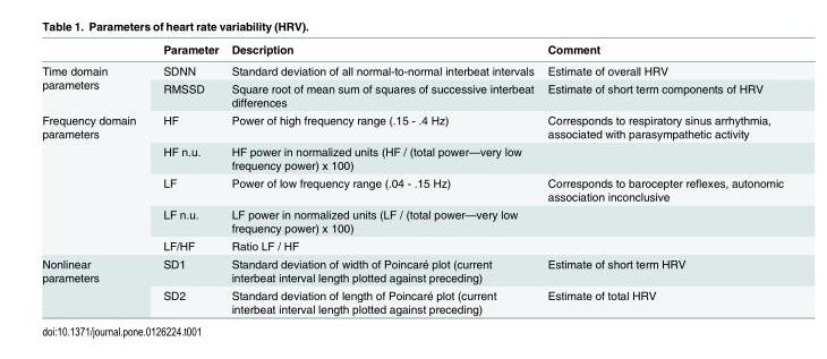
<table><thead><tr><td></td><td>Parameter</td><td>Description</td><td>Comment</td></tr></thead><tbody><tr><td rowspan="2">Time domain parameters</td><td>SDNN</td><td>Standard deviation of all normal-to-normal interbeat intervals</td><td>Estimate of overall HRV</td></tr><tr><td>RMSSD</td><td>Square root of mean sum of squares of successive interbeat differences</td><td>Estimate of short term components of HRV</td></tr><tr><td rowspan="5">Frequency domain parameters</td><td>HF</td><td>Power of high frequency range (.15 - .4 Hz)</td><td>Corresponds to respiratory sinus arrhythmia, associated with parasympathetic activity</td></tr><tr><td>HF n.u.</td><td>HF power in normalized units (HF / (total power—very low frequency power) x 100)</td><td></td></tr><tr><td>LF</td><td>Power of low frequency range (.04 - .15 Hz)</td><td>Corresponds to barocepter reflexes, autonomic association inconclusive</td></tr><tr><td>LF n.u.</td><td>LF power in normalized units (LF / (total power—very low frequency power) x 100)</td><td></td></tr><tr><td>LF/HF</td><td>Ratio LF / HF</td><td></td></tr><tr><td rowspan="2">Nonlinear parameters</td><td>SD1</td><td>Standard deviation of width of Poincaré plot (current interbeat interval length plotted against preceding)</td><td>Estimate of short term HRV</td></tr><tr><td>SD2</td><td>Standard deviation of length of Poincaré plot (current interbeat interval length plotted against preceding)</td><td>Estimate of total HRV</td></tr></tbody></table>